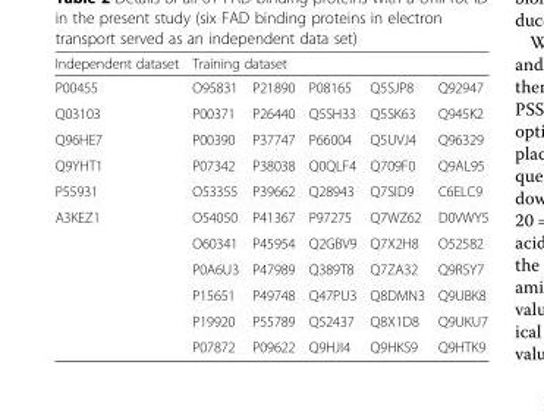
<table><thead><tr><td rowspan="2">Independent dataset P00455</td><td colspan="5">Training dataset</td></tr><tr><td>O95831</td><td>P21890</td><td>P08165</td><td>Q5SJP8</td><td>Q92947</td></tr></thead><tbody><tr><td>Q03103</td><td>P00371</td><td>P26440</td><td>Q5SH33</td><td>Q5SK63</td><td>Q945K2</td></tr><tr><td>Q96HE7</td><td>P00390</td><td>P37747</td><td>P66004</td><td>Q5UVJ4</td><td>Q96329</td></tr><tr><td>Q9YHT1</td><td>P07342</td><td>P38038</td><td>Q0QLF4</td><td>Q709F0</td><td>Q9AL95</td></tr><tr><td>P55931</td><td>O53355</td><td>P39662</td><td>Q28943</td><td>Q7SID9</td><td>C6ELC9</td></tr><tr><td rowspan="6">A3KEZ1</td><td>O54050</td><td>P41367</td><td>P97275</td><td>Q7WZ62</td><td>D0VWY5</td></tr><tr><td>O60341</td><td>P45954</td><td>Q2GBV9</td><td>Q7X2H8</td><td>O52582</td></tr><tr><td>P0A6U3</td><td>P47989</td><td>Q389T8</td><td>Q7ZA32</td><td>Q9RSY7</td></tr><tr><td>P15651</td><td>P49748</td><td>Q47PU3</td><td>Q8DMN3</td><td>Q9UBK8</td></tr><tr><td>P19920</td><td>P55789</td><td>Q52437</td><td>Q8X1D8</td><td>Q9UKU7</td></tr><tr><td>P07872</td><td>P09622</td><td>Q9HJI4</td><td>Q9HKS9</td><td>Q9HTK9</td></tr></tbody></table>